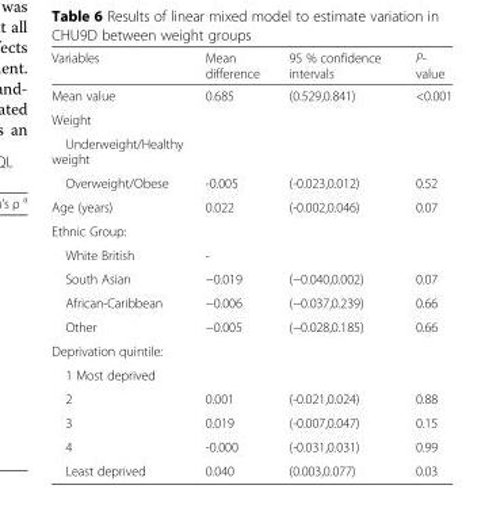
<table><thead><tr><td>Variables</td><td>Mean difference</td><td>95 % confidence intervals</td><td>P- value</td></tr></thead><tbody><tr><td>Mean value</td><td>0.685</td><td>(0.529,0.841)</td><td>&lt;0.001</td></tr><tr><td colspan="4">Weight</td></tr><tr><td colspan="4">Underweight/Healthy weight</td></tr><tr><td>Overweight/Obese</td><td>-0.005</td><td>(-0.023,0.012)</td><td>0.52</td></tr><tr><td>Age (years)</td><td>0.022</td><td>(-0.002,0.046)</td><td>0.07</td></tr><tr><td colspan="4">Ethnic Group:</td></tr><tr><td>White British</td><td>-</td><td></td><td></td></tr><tr><td>South Asian</td><td>−0.019</td><td>(−0.040,0.002)</td><td>0.07</td></tr><tr><td>African-Caribbean</td><td>−0.006</td><td>(−0.037,0.239)</td><td>0.66</td></tr><tr><td>Other</td><td>−0.005</td><td>(−0.028,0.185)</td><td>0.66</td></tr><tr><td colspan="4">Deprivation quintile:</td></tr><tr><td colspan="4">1 Most deprived</td></tr><tr><td>2</td><td>0.001</td><td>(-0.021,0.024)</td><td>0.88</td></tr><tr><td>3</td><td>0.019</td><td>(-0.007,0.047)</td><td>0.15</td></tr><tr><td>4</td><td>-0.000</td><td>(-0.031,0.031)</td><td>0.99</td></tr><tr><td>Least deprived</td><td>0.040</td><td>(0.003,0.077)</td><td>0.03</td></tr></tbody></table>